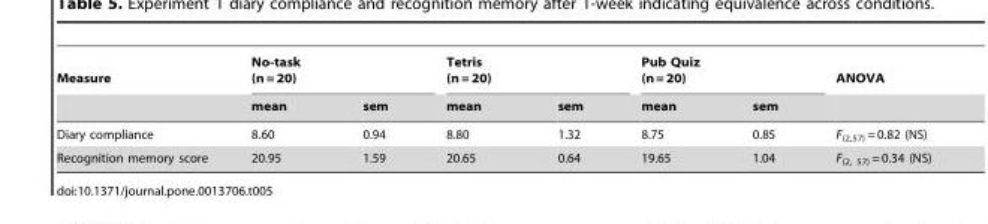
<table><thead><tr><td rowspan="2">Measure</td><td colspan="2">No-task (n = 20)</td><td colspan="2">Tetris (n = 20)</td><td colspan="2">Pub Quiz (n = 20)</td><td rowspan="2">ANOVA</td></tr><tr><td>mean</td><td>sem</td><td>mean</td><td>sem</td><td>mean</td><td>sem</td></tr></thead><tbody><tr><td>Diary compliance</td><td>8.60</td><td>0.94</td><td>8.80</td><td>1.32</td><td>8.75</td><td>0.85</td><td>F<sub>(2,57)</sub> = 0.82 (NS)</td></tr><tr><td>Recognition memory score</td><td>20.95</td><td>1.59</td><td>20.65</td><td>0.64</td><td>19.65</td><td>1.04</td><td>F<sub>(2, 57)</sub> = 0.34 (NS)</td></tr></tbody></table>